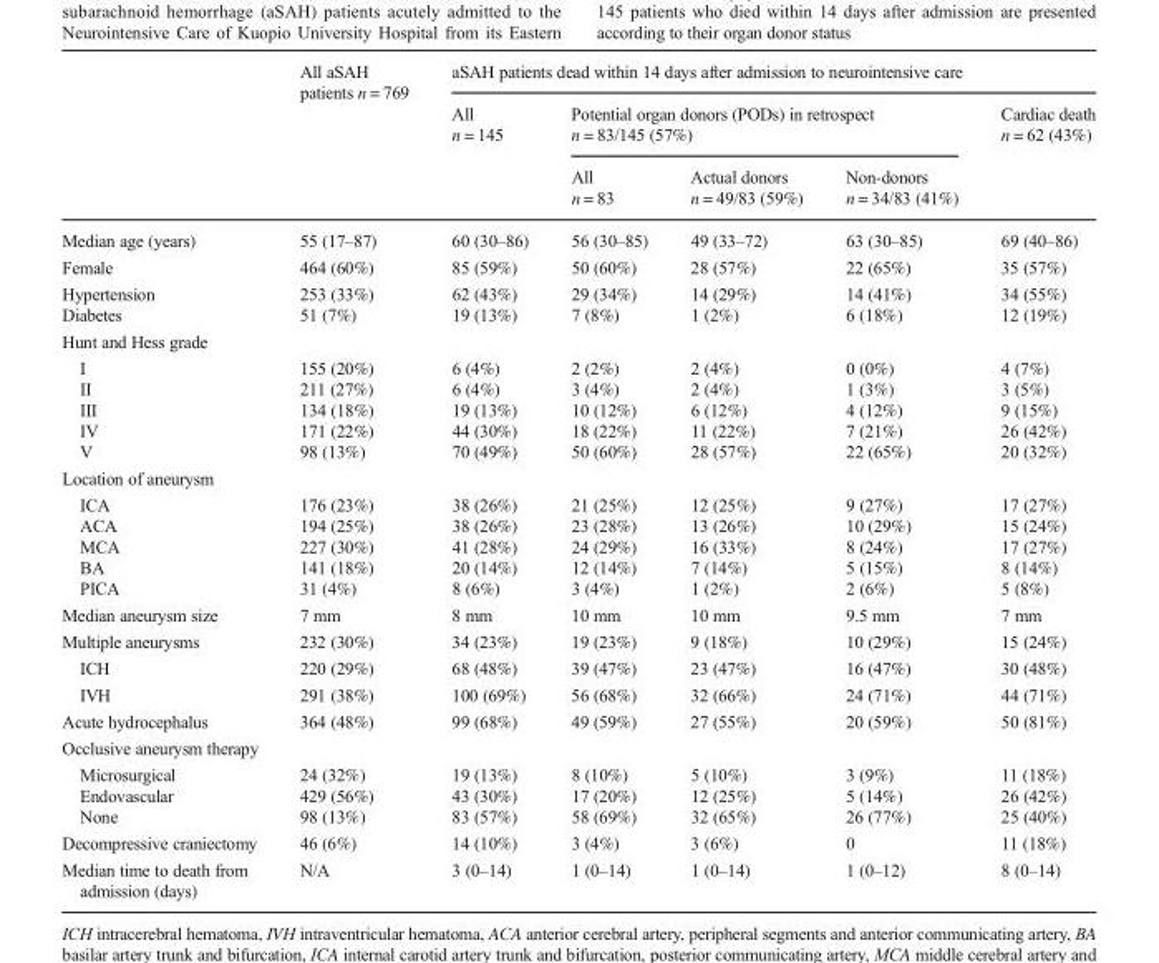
<table><thead><tr><td rowspan="3"></td><td rowspan="3">All aSAH patients n = 769</td><td colspan="5">aSAH patients dead within 14 days after admission to neurointensive care</td></tr><tr><td rowspan="2">All n = 145</td><td colspan="3">Potential organ donors (PODs) in retrospect n = 83/145 (57%)</td><td rowspan="2">Cardiac death n = 62 (43%)</td></tr><tr><td>All n = 83</td><td>Actual donors n = 49/83 (59%)</td><td>Non-donors n = 34/83 (41%)</td></tr></thead><tbody><tr><td>Median age (years)</td><td>55 (17–87)</td><td>60 (30–86)</td><td>56 (30–85)</td><td>49 (33–72)</td><td>63 (30–85)</td><td>69 (40–86)</td></tr><tr><td>Female</td><td>464 (60%)</td><td>85 (59%)</td><td>50 (60%)</td><td>28 (57%)</td><td>22 (65%)</td><td>35 (57%)</td></tr><tr><td>Hypertension Diabetes</td><td>253 (33%) 51 (7%)</td><td>62 (43%) 19 (13%)</td><td>29 (34%) 7 (8%)</td><td>14 (29%) 1 (2%)</td><td>14 (41%) 6 (18%)</td><td>34 (55%) 12 (19%)</td></tr><tr><td colspan="7">Hunt and Hess grade</td></tr><tr><td>I II III IV V</td><td>155 (20%) 211 (27%) 134 (18%) 171 (22%) 98 (13%)</td><td>6 (4%) 6 (4%) 19 (13%) 44 (30%) 70 (49%)</td><td>2 (2%) 3 (4%) 10 (12%) 18 (22%) 50 (60%)</td><td>2 (4%) 2 (4%) 6 (12%) 11 (22%) 28 (57%)</td><td>0 (0%) 1 (3%) 4 (12%) 7 (21%) 22 (65%)</td><td>4 (7%) 3 (5%) 9 (15%) 26 (42%) 20 (32%)</td></tr><tr><td colspan="7">Location of aneurysm</td></tr><tr><td>ICA ACA MCA BA PICA</td><td>176 (23%) 194 (25%) 227 (30%) 141 (18%) 31 (4%)</td><td>38 (26%) 38 (26%) 41 (28%) 20 (14%) 8 (6%)</td><td>21 (25%) 23 (28%) 24 (29%) 12 (14%) 3 (4%)</td><td>12 (25%) 13 (26%) 16 (33%) 7 (14%) 1 (2%)</td><td>9 (27%) 10 (29%) 8 (24%) 5 (15%) 2 (6%)</td><td>17 (27%) 15 (24%) 17 (27%) 8 (14%) 5 (8%)</td></tr><tr><td>Median aneurysm size</td><td>7 mm</td><td>8 mm</td><td>10 mm</td><td>10 mm</td><td>9.5 mm</td><td>7 mm</td></tr><tr><td>Multiple aneurysms</td><td>232 (30%)</td><td>34 (23%)</td><td>19 (23%)</td><td>9 (18%)</td><td>10 (29%)</td><td>15 (24%)</td></tr><tr><td>ICH</td><td>220 (29%)</td><td>68 (48%)</td><td>39 (47%)</td><td>23 (47%)</td><td>16 (47%)</td><td>30 (48%)</td></tr><tr><td>IVH</td><td>291 (38%)</td><td>100 (69%)</td><td>56 (68%)</td><td>32 (66%)</td><td>24 (71%)</td><td>44 (71%)</td></tr><tr><td>Acute hydrocephalus</td><td>364 (48%)</td><td>99 (68%)</td><td>49 (59%)</td><td>27 (55%)</td><td>20 (59%)</td><td>50 (81%)</td></tr><tr><td colspan="7">Occlusive aneurysm therapy</td></tr><tr><td>Microsurgical Endovascular None</td><td>24 (32%) 429 (56%) 98 (13%)</td><td>19 (13%) 43 (30%) 83 (57%)</td><td>8 (10%) 17 (20%) 58 (69%)</td><td>5 (10%) 12 (25%) 32 (65%)</td><td>3 (9%) 5 (14%) 26 (77%)</td><td>11 (18%) 26 (42%) 25 (40%)</td></tr><tr><td>Decompressive craniectomy</td><td>46 (6%)</td><td>14 (10%)</td><td>3 (4%)</td><td>3 (6%)</td><td>0</td><td>11 (18%)</td></tr><tr><td>Median time to death from admission (days)</td><td>N/A</td><td>3 (0–14)</td><td>1 (0–14)</td><td>1 (0–14)</td><td>1 (0–12)</td><td>8 (0–14)</td></tr></tbody></table>